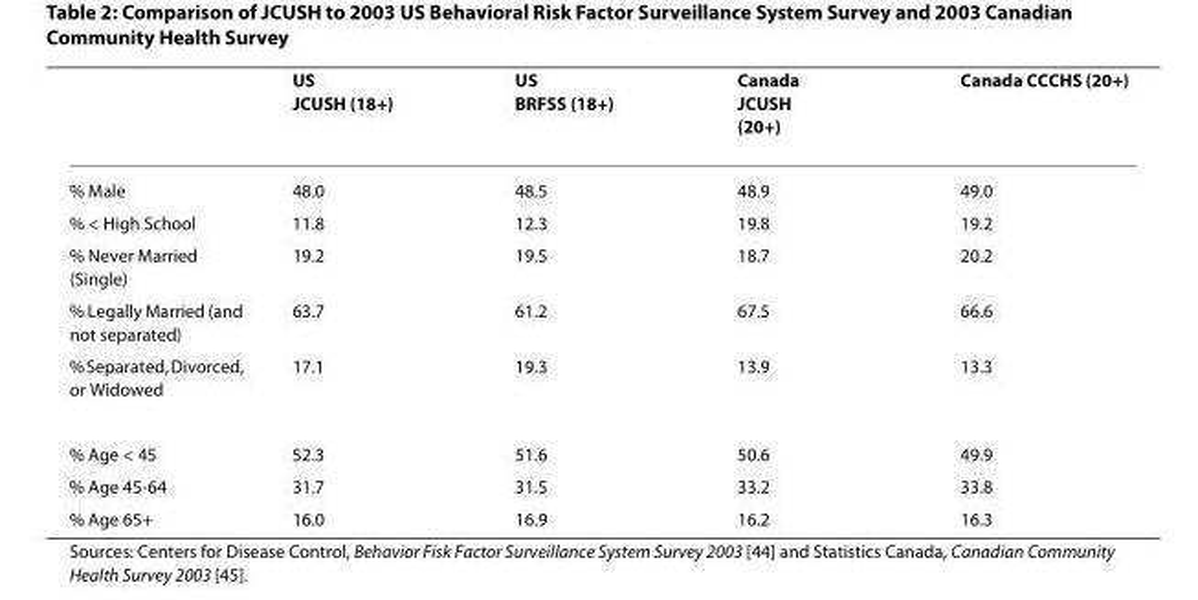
<table><thead><tr><td></td><td>US JCUSH (18+)</td><td>US BRFSS (18+)</td><td>Canada JCUSH (20+)</td><td>Canada CCCHS (20+)</td></tr></thead><tbody><tr><td>% Male</td><td>48.0</td><td>48.5</td><td>48.9</td><td>49.0</td></tr><tr><td>% &lt; High School</td><td>11.8</td><td>12.3</td><td>19.8</td><td>19.2</td></tr><tr><td>% Never Married (Single)</td><td>19.2</td><td>19.5</td><td>18.7</td><td>20.2</td></tr><tr><td>% Legally Married (and not separated)</td><td>63.7</td><td>61.2</td><td>67.5</td><td>66.6</td></tr><tr><td>% Separated, Divorced, or Widowed</td><td>17.1</td><td>19.3</td><td>13.9</td><td>13.3</td></tr><tr><td>% Age &lt; 45</td><td>52.3</td><td>51.6</td><td>50.6</td><td>49.9</td></tr><tr><td>% Age 45-64</td><td>31.7</td><td>31.5</td><td>33.2</td><td>33.8</td></tr><tr><td>% Age 65+</td><td>16.0</td><td>16.9</td><td>16.2</td><td>16.3</td></tr></tbody></table>